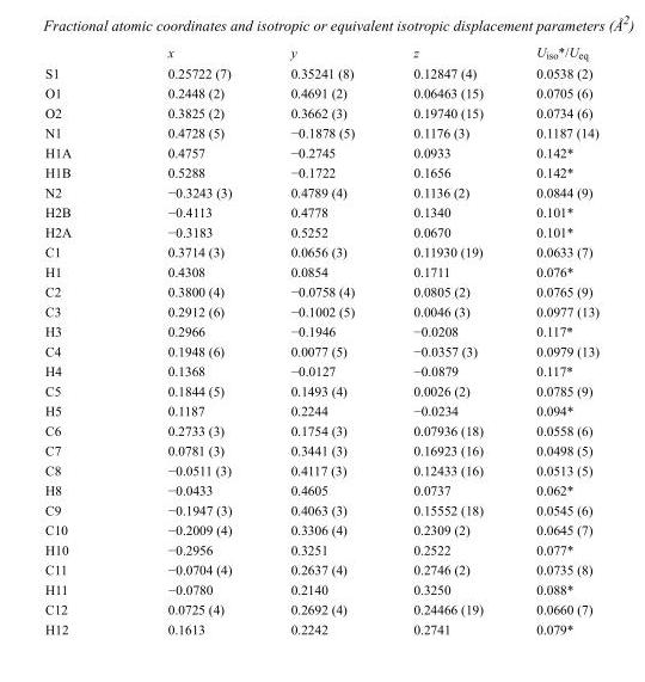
<table><thead><tr><td></td><td>x</td><td>y</td><td>z</td><td>U<sub>iso</sub>*/U<sub>eq</sub></td></tr></thead><tbody><tr><td>S1</td><td>0.25722 (7)</td><td>0.35241 (8)</td><td>0.12847 (4)</td><td>0.0538 (2)</td></tr><tr><td>O1</td><td>0.2448 (2)</td><td>0.4691 (2)</td><td>0.06463 (15)</td><td>0.0705 (6)</td></tr><tr><td>O2</td><td>0.3825 (2)</td><td>0.3662 (3)</td><td>0.19740 (15)</td><td>0.0734 (6)</td></tr><tr><td>N1</td><td>0.4728 (5)</td><td>−0.1878 (5)</td><td>0.1176 (3)</td><td>0.1187 (14)</td></tr><tr><td>H1A</td><td>0.4757</td><td>−0.2745</td><td>0.0933</td><td>0.142*</td></tr><tr><td>H1B</td><td>0.5288</td><td>−0.1722</td><td>0.1656</td><td>0.142*</td></tr><tr><td>N2</td><td>−0.3243 (3)</td><td>0.4789 (4)</td><td>0.1136 (2)</td><td>0.0844 (9)</td></tr><tr><td>H2B</td><td>−0.4113</td><td>0.4778</td><td>0.1340</td><td>0.101*</td></tr><tr><td>H2A</td><td>−0.3183</td><td>0.5252</td><td>0.0670</td><td>0.101*</td></tr><tr><td>C1</td><td>0.3714 (3)</td><td>0.0656 (3)</td><td>0.11930 (19)</td><td>0.0633 (7)</td></tr><tr><td>H1</td><td>0.4308</td><td>0.0854</td><td>0.1711</td><td>0.076*</td></tr><tr><td>C2</td><td>0.3800 (4)</td><td>−0.0758 (4)</td><td>0.0805 (2)</td><td>0.0765 (9)</td></tr><tr><td>C3</td><td>0.2912 (6)</td><td>−0.1002 (5)</td><td>0.0046 (3)</td><td>0.0977 (13)</td></tr><tr><td>H3</td><td>0.2966</td><td>−0.1946</td><td>−0.0208</td><td>0.117*</td></tr><tr><td>C4</td><td>0.1948 (6)</td><td>0.0077 (5)</td><td>−0.0357 (3)</td><td>0.0979 (13)</td></tr><tr><td>H4</td><td>0.1368</td><td>−0.0127</td><td>−0.0879</td><td>0.117*</td></tr><tr><td>C5</td><td>0.1844 (5)</td><td>0.1493 (4)</td><td>0.0026 (2)</td><td>0.0785 (9)</td></tr><tr><td>H5</td><td>0.1187</td><td>0.2244</td><td>−0.0234</td><td>0.094*</td></tr><tr><td>C6</td><td>0.2733 (3)</td><td>0.1754 (3)</td><td>0.07936 (18)</td><td>0.0558 (6)</td></tr><tr><td>C7</td><td>0.0781 (3)</td><td>0.3441 (3)</td><td>0.16923 (16)</td><td>0.0498 (5)</td></tr><tr><td>C8</td><td>−0.0511 (3)</td><td>0.4117 (3)</td><td>0.12433 (16)</td><td>0.0513 (5)</td></tr><tr><td>H8</td><td>−0.0433</td><td>0.4605</td><td>0.0737</td><td>0.062*</td></tr><tr><td>C9</td><td>−0.1947 (3)</td><td>0.4063 (3)</td><td>0.15552 (18)</td><td>0.0545 (6)</td></tr><tr><td>C10</td><td>−0.2009 (4)</td><td>0.3306 (4)</td><td>0.2309 (2)</td><td>0.0645 (7)</td></tr><tr><td>H10</td><td>−0.2956</td><td>0.3251</td><td>0.2522</td><td>0.077*</td></tr><tr><td>C11</td><td>−0.0704 (4)</td><td>0.2637 (4)</td><td>0.2746 (2)</td><td>0.0735 (8)</td></tr><tr><td>H11</td><td>−0.0780</td><td>0.2140</td><td>0.3250</td><td>0.088*</td></tr><tr><td>C12</td><td>0.0725 (4)</td><td>0.2692 (4)</td><td>0.24466 (19)</td><td>0.0660 (7)</td></tr><tr><td>H12</td><td>0.1613</td><td>0.2242</td><td>0.2741</td><td>0.079*</td></tr></tbody></table>